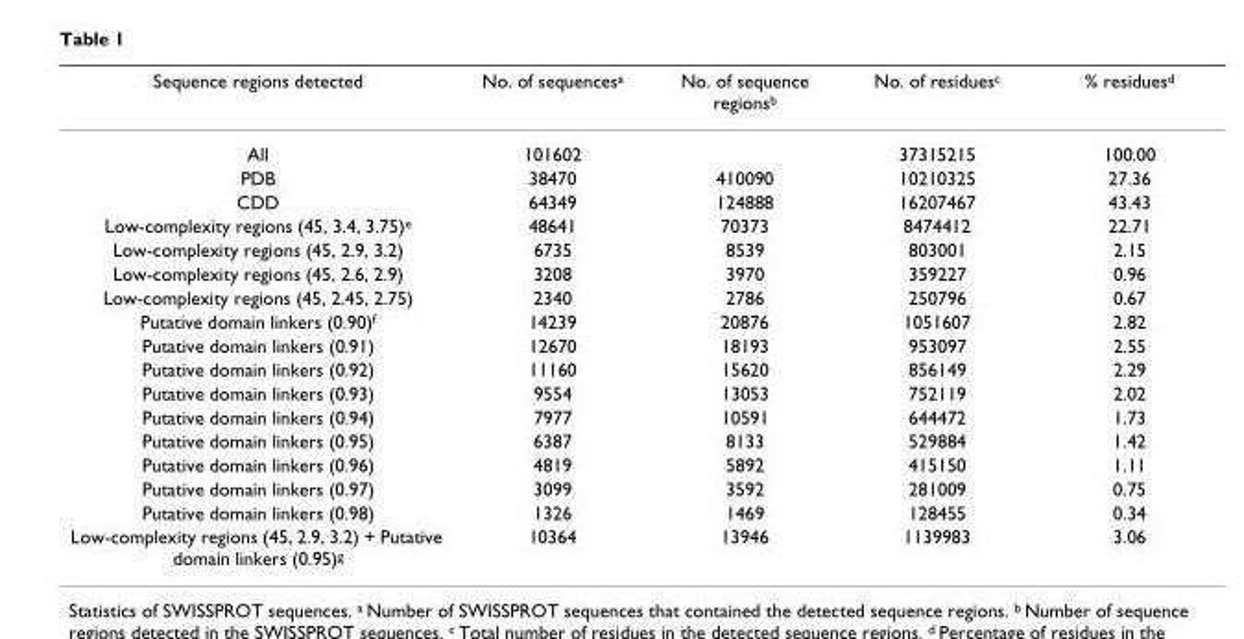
<table><thead><tr><td>Sequence regions detected</td><td>No. of sequencesa</td><td>No. of sequence regionsb</td><td>No. of residuesc</td><td>% residuesd</td></tr></thead><tbody><tr><td>All</td><td>101602</td><td></td><td>37315215</td><td>100.00</td></tr><tr><td>PDB</td><td>38470</td><td>410090</td><td>10210325</td><td>27.36</td></tr><tr><td>CDD</td><td>64349</td><td>124888</td><td>16207467</td><td>43.43</td></tr><tr><td>Low-complexity regions (45, 3.4, 3.75)e</td><td>48641</td><td>70373</td><td>8474412</td><td>22.71</td></tr><tr><td>Low-complexity regions (45, 2.9, 3.2)</td><td>6735</td><td>8539</td><td>803001</td><td>2.15</td></tr><tr><td>Low-complexity regions (45, 2.6, 2.9)</td><td>3208</td><td>3970</td><td>359227</td><td>0.96</td></tr><tr><td>Low-complexity regions (45, 2.45, 2.75)</td><td>2340</td><td>2786</td><td>250796</td><td>0.67</td></tr><tr><td>Putative domain linkers (0.90)f</td><td>14239</td><td>20876</td><td>1051607</td><td>2.82</td></tr><tr><td>Putative domain linkers (0.91)</td><td>12670</td><td>18193</td><td>953097</td><td>2.55</td></tr><tr><td>Putative domain linkers (0.92)</td><td>11160</td><td>15620</td><td>856149</td><td>2.29</td></tr><tr><td>Putative domain linkers (0.93)</td><td>9554</td><td>13053</td><td>752119</td><td>2.02</td></tr><tr><td>Putative domain linkers (0.94)</td><td>7977</td><td>10591</td><td>644472</td><td>1.73</td></tr><tr><td>Putative domain linkers (0.95)</td><td>6387</td><td>8133</td><td>529884</td><td>1.42</td></tr><tr><td>Putative domain linkers (0.96)</td><td>4819</td><td>5892</td><td>415150</td><td>1.11</td></tr><tr><td>Putative domain linkers (0.97)</td><td>3099</td><td>3592</td><td>281009</td><td>0.75</td></tr><tr><td>Putative domain linkers (0.98)</td><td>1326</td><td>1469</td><td>128455</td><td>0.34</td></tr><tr><td>Low-complexity regions (45, 2.9, 3.2) + Putative domain linkers (0.95)g</td><td>10364</td><td>13946</td><td>1139983</td><td>3.06</td></tr></tbody></table>